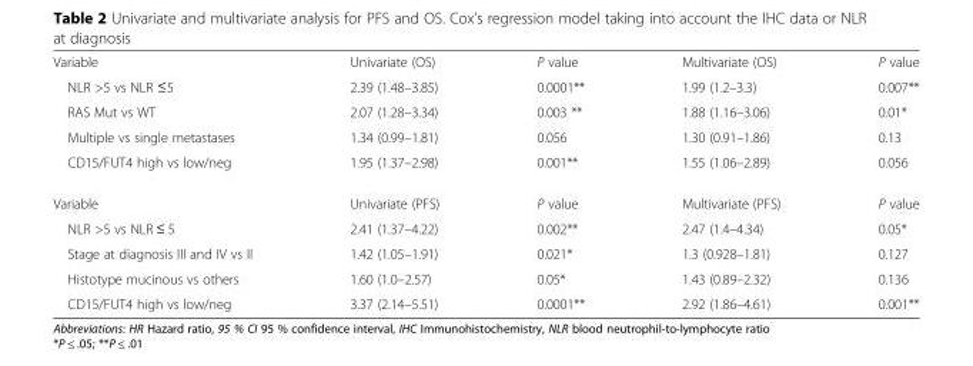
<table><tbody><tr><td>Variable</td><td>Univariate (OS)</td><td>P value</td><td>Multivariate (OS)</td><td>P value</td></tr><tr><td>NLR &gt;5 vs NLR ≤5</td><td>2.39 (1.48–3.85)</td><td>0.0001**</td><td>1.99 (1.2–3.3)</td><td>0.007**</td></tr><tr><td>RAS Mut vs WT</td><td>2.07 (1.28–3.34)</td><td>0.003 **</td><td>1.88 (1.16–3.06)</td><td>0.01*</td></tr><tr><td>Multiple vs single metastases</td><td>1.34 (0.99–1.81)</td><td>0.056</td><td>1.30 (0.91–1.86)</td><td>0.13</td></tr><tr><td>CD15/FUT4 high vs low/neg</td><td>1.95 (1.37–2.98)</td><td>0.001**</td><td>1.55 (1.06–2.89)</td><td>0.056</td></tr><tr><td>Variable</td><td>Univariate (PFS)</td><td>P value</td><td>Multivariate (PFS)</td><td>P value</td></tr><tr><td>NLR &gt;5 vs NLR ≤ 5</td><td>2.41 (1.37–4.22)</td><td>0.002**</td><td>2.47 (1.4–4.34)</td><td>0.05*</td></tr><tr><td>Stage at diagnosis III and IV vs II</td><td>1.42 (1.05–1.91)</td><td>0.021*</td><td>1.3 (0.928–1.81)</td><td>0.127</td></tr><tr><td>Histotype mucinous vs others</td><td>1.60 (1.0–2.57)</td><td>0.05*</td><td>1.43 (0.89–2.32)</td><td>0.136</td></tr><tr><td>CD15/FUT4 high vs low/neg</td><td>3.37 (2.14–5.51)</td><td>0.0001**</td><td>2.92 (1.86–4.61)</td><td>0.001**</td></tr></tbody></table>